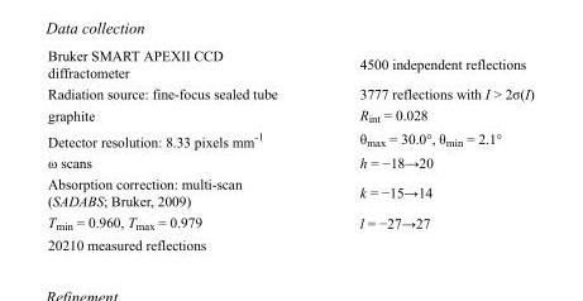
<table><tbody><tr><td>Bruker SMART APEXII CCD diffractometer</td><td>4500 independent reflections</td></tr><tr><td>Radiation source: fine-focus sealed tube</td><td>3777 reflections with I &gt; 2σ(I)</td></tr><tr><td>graphite</td><td>R<sub>int</sub> = 0.028</td></tr><tr><td>Detector resolution: 8.33 pixels mm<sup>-1</sup></td><td>θ<sub>max</sub> = 30.0°, θ<sub>min</sub> = 2.1°</td></tr><tr><td>ω scans</td><td>h = −18→20</td></tr><tr><td>Absorption correction: multi-scan (SADABS; Bruker, 2009)</td><td>k = −15→14</td></tr><tr><td>T<sub>min</sub> = 0.960, T<sub>max</sub> = 0.979</td><td>l = −27→27</td></tr><tr><td>20210 measured reflections</td><td></td></tr></tbody></table>